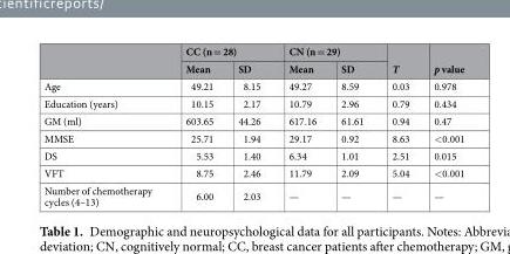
<table><thead><tr><td rowspan="2"></td><td colspan="2">CC (n = 28)</td><td colspan="2">CN (n = 29)</td><td rowspan="2">T</td><td rowspan="2">p value</td></tr><tr><td>Mean</td><td>SD</td><td>Mean</td><td>SD</td></tr></thead><tbody><tr><td>Age</td><td>49.21</td><td>8.15</td><td>49.27</td><td>8.59</td><td>0.03</td><td>0.978</td></tr><tr><td>Education (years)</td><td>10.15</td><td>2.17</td><td>10.79</td><td>2.96</td><td>0.79</td><td>0.434</td></tr><tr><td>GM (ml)</td><td>603.65</td><td>44.26</td><td>617.16</td><td>61.61</td><td>0.94</td><td>0.47</td></tr><tr><td>MMSE</td><td>25.71</td><td>1.94</td><td>29.17</td><td>0.92</td><td>8.63</td><td>&lt;0.001</td></tr><tr><td>DS</td><td>5.53</td><td>1.40</td><td>6.34</td><td>1.01</td><td>2.51</td><td>0.015</td></tr><tr><td>VFT</td><td>8.75</td><td>2.46</td><td>11.79</td><td>2.09</td><td>5.04</td><td>&lt;0.001</td></tr><tr><td>Number of chemotherapy cycles (4–13)</td><td>6.00</td><td>2.03</td><td>—</td><td>—</td><td>—</td><td>—</td></tr></tbody></table>